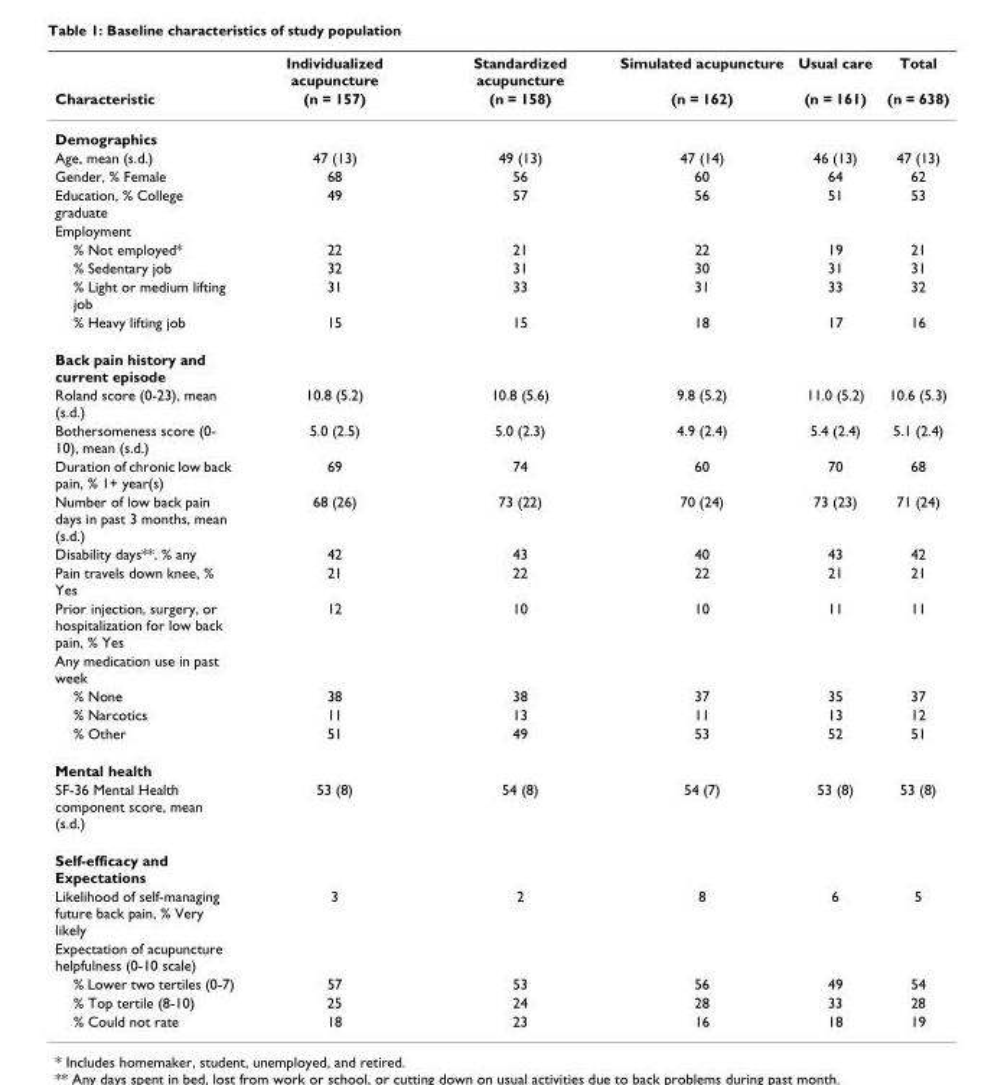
<table><thead><tr><td rowspan="2">Characteristic</td><td rowspan="2">Individualized acupuncture (n = 157)</td><td rowspan="2">Standardized acupuncture (n = 158)</td><td rowspan="2">Simulated acupuncture (n = 162)</td><td rowspan="2">Usual care (n = 161)</td><td rowspan="2">Total (n = 638)</td></tr><tr></tr></thead><tbody><tr><td colspan="6">Demographics</td></tr><tr><td>Age, mean (s.d.)</td><td>47 (13)</td><td>49 (13)</td><td>47 (14)</td><td>46 (13)</td><td>47 (13)</td></tr><tr><td>Gender, % Female</td><td>68</td><td>56</td><td>60</td><td>64</td><td>62</td></tr><tr><td>Education, % College graduate</td><td>49</td><td>57</td><td>56</td><td>51</td><td>53</td></tr><tr><td colspan="6">Employment</td></tr><tr><td>% Not employed*</td><td>22</td><td>21</td><td>22</td><td>19</td><td>21</td></tr><tr><td>% Sedentary job</td><td>32</td><td>31</td><td>30</td><td>31</td><td>31</td></tr><tr><td>% Light or medium lifting job</td><td>31</td><td>33</td><td>31</td><td>33</td><td>32</td></tr><tr><td>% Heavy lifting job</td><td>15</td><td>15</td><td>18</td><td>17</td><td>16</td></tr><tr><td colspan="6">Back pain history and current episode</td></tr><tr><td>Roland score (0-23), mean (s.d.)</td><td>10.8 (5.2)</td><td>10.8 (5.6)</td><td>9.8 (5.2)</td><td>11.0 (5.2)</td><td>10.6 (5.3)</td></tr><tr><td>Bothersomeness score (0- 10), mean (s.d.)</td><td>5.0 (2.5)</td><td>5.0 (2.3)</td><td>4.9 (2.4)</td><td>5.4 (2.4)</td><td>5.1 (2.4)</td></tr><tr><td>Duration of chronic low back pain, % 1+ year(s)</td><td>69</td><td>74</td><td>60</td><td>70</td><td>68</td></tr><tr><td>Number of low back pain days in past 3 months, mean (s.d.)</td><td>68 (26)</td><td>73 (22)</td><td>70 (24)</td><td>73 (23)</td><td>71 (24)</td></tr><tr><td>Disability days**, % any</td><td>42</td><td>43</td><td>40</td><td>43</td><td>42</td></tr><tr><td>Pain travels down knee, % Yes</td><td>21</td><td>22</td><td>22</td><td>21</td><td>21</td></tr><tr><td>Prior injection, surgery, or hospitalization for low back pain, % Yes</td><td>12</td><td>10</td><td>10</td><td>11</td><td>11</td></tr><tr><td colspan="6">Any medication use in past week</td></tr><tr><td>% None</td><td>38</td><td>38</td><td>37</td><td>35</td><td>37</td></tr><tr><td>% Narcotics</td><td>11</td><td>13</td><td>11</td><td>13</td><td>12</td></tr><tr><td>% Other</td><td>51</td><td>49</td><td>53</td><td>52</td><td>51</td></tr><tr><td colspan="6">Mental health</td></tr><tr><td>SF-36 Mental Health component score, mean (s.d.)</td><td>53 (8)</td><td>54 (8)</td><td>54 (7)</td><td>53 (8)</td><td>53 (8)</td></tr><tr><td colspan="6">Self-efficacy and Expectations</td></tr><tr><td>Likelihood of self-managing future back pain, % Very likely</td><td>3</td><td>2</td><td>8</td><td>6</td><td>5</td></tr><tr><td colspan="6">Expectation of acupuncture helpfulness (0-10 scale)</td></tr><tr><td>% Lower two tertiles (0-7)</td><td>57</td><td>53</td><td>56</td><td>49</td><td>54</td></tr><tr><td>% Top tertile (8-10)</td><td>25</td><td>24</td><td>28</td><td>33</td><td>28</td></tr><tr><td>% Could not rate</td><td>18</td><td>23</td><td>16</td><td>18</td><td>19</td></tr></tbody></table>